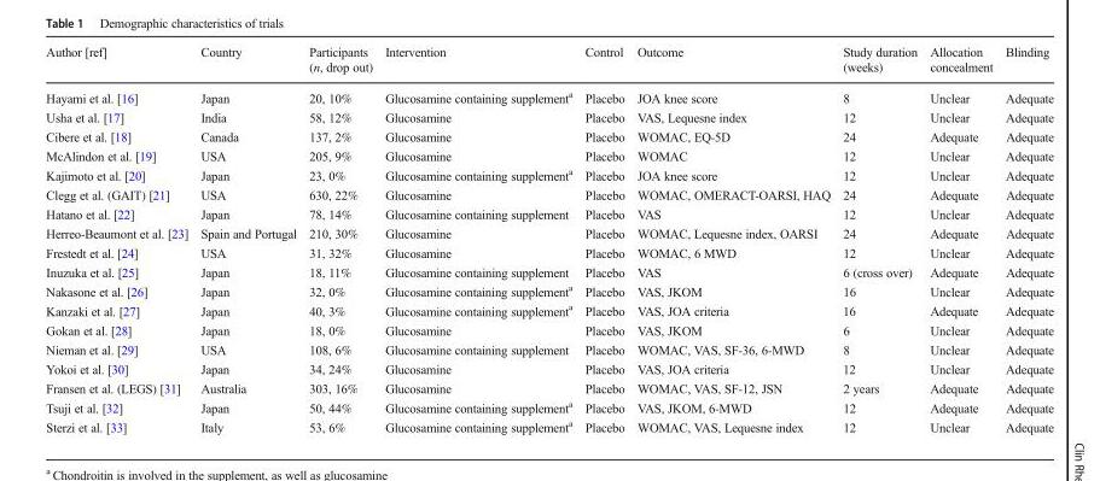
<table><thead><tr><td>Author [ref]</td><td>Country</td><td>Participants (n, drop out)</td><td>Intervention</td><td>Control</td><td>Outcome</td><td>Study duration (weeks)</td><td>Allocation concealment</td><td>Blinding</td></tr></thead><tbody><tr><td>Hayami et al. [16]</td><td>Japan</td><td>20, 10%</td><td>Glucosamine containing supplement<sup>a</sup></td><td>Placebo</td><td>JOA knee score</td><td>8</td><td>Unclear</td><td>Adequate</td></tr><tr><td>Usha et al. [17]</td><td>India</td><td>58, 12%</td><td>Glucosamine</td><td>Placebo</td><td>VAS, Lequesne index</td><td>12</td><td>Unclear</td><td>Adequate</td></tr><tr><td>Cibere et al. [18]</td><td>Canada</td><td>137, 2%</td><td>Glucosamine</td><td>Placebo</td><td>WOMAC, EQ-5D</td><td>24</td><td>Adequate</td><td>Adequate</td></tr><tr><td>McAlindon et al. [19]</td><td>USA</td><td>205, 9%</td><td>Glucosamine</td><td>Placebo</td><td>WOMAC</td><td>12</td><td>Unclear</td><td>Adequate</td></tr><tr><td>Kajimoto et al. [20]</td><td>Japan</td><td>23, 0%</td><td>Glucosamine containing supplement<sup>a</sup></td><td>Placebo</td><td>JOA knee score</td><td>12</td><td>Unclear</td><td>Adequate</td></tr><tr><td>Clegg et al. (GAIT) [21]</td><td>USA</td><td>630, 22%</td><td>Glucosamine</td><td>Placebo</td><td>WOMAC, OMERACT-OARSI, HAQ</td><td>24</td><td>Adequate</td><td>Adequate</td></tr><tr><td>Hatano et al. [22]</td><td>Japan</td><td>78, 14%</td><td>Glucosamine containing supplement</td><td>Placebo</td><td>VAS</td><td>12</td><td>Unclear</td><td>Adequate</td></tr><tr><td>Herreo-Beaumont et al. [23]</td><td>Spain and Portugal</td><td>210, 30%</td><td>Glucosamine</td><td>Placebo</td><td>WOMAC, Lequesne index, OARSI</td><td>24</td><td>Adequate</td><td>Adequate</td></tr><tr><td>Frestedt et al. [24]</td><td>USA</td><td>31, 32%</td><td>Glucosamine</td><td>Placebo</td><td>WOMAC, 6 MWD</td><td>12</td><td>Unclear</td><td>Adequate</td></tr><tr><td>Inuzuka et al. [25]</td><td>Japan</td><td>18, 11%</td><td>Glucosamine containing supplement</td><td>Placebo</td><td>VAS</td><td>6 (cross over)</td><td>Adequate</td><td>Adequate</td></tr><tr><td>Nakasone et al. [26]</td><td>Japan</td><td>32, 0%</td><td>Glucosamine containing supplement<sup>a</sup></td><td>Placebo</td><td>VAS, JKOM</td><td>16</td><td>Unclear</td><td>Adequate</td></tr><tr><td>Kanzaki et al. [27]</td><td>Japan</td><td>40, 3%</td><td>Glucosamine containing supplement<sup>a</sup></td><td>Placebo</td><td>VAS, JOA criteria</td><td>16</td><td>Adequate</td><td>Adequate</td></tr><tr><td>Gokan et al. [28]</td><td>Japan</td><td>18, 0%</td><td>Glucosamine</td><td>Placebo</td><td>VAS, JKOM</td><td>6</td><td>Unclear</td><td>Adequate</td></tr><tr><td>Nieman et al. [29]</td><td>USA</td><td>108, 6%</td><td>Glucosamine containing supplement</td><td>Placebo</td><td>WOMAC, VAS, SF-36, 6-MWD</td><td>8</td><td>Unclear</td><td>Adequate</td></tr><tr><td>Yokoi et al. [30]</td><td>Japan</td><td>34, 24%</td><td>Glucosamine</td><td>Placebo</td><td>VAS, JOA criteria</td><td>12</td><td>Unclear</td><td>Adequate</td></tr><tr><td>Fransen et al. (LEGS) [31]</td><td>Australia</td><td>303, 16%</td><td>Glucosamine</td><td>Placebo</td><td>WOMAC, VAS, SF-12, JSN</td><td>2 years</td><td>Adequate</td><td>Adequate</td></tr><tr><td>Tsuji et al. [32]</td><td>Japan</td><td>50, 44%</td><td>Glucosamine containing supplement<sup>a</sup></td><td>Placebo</td><td>VAS, JKOM, 6-MWD</td><td>12</td><td>Adequate</td><td>Adequate</td></tr><tr><td>Sterzi et al. [33]</td><td>Italy</td><td>53, 6%</td><td>Glucosamine containing supplement<sup>a</sup></td><td>Placebo</td><td>WOMAC, VAS, Lequesne index</td><td>12</td><td>Unclear</td><td>Adequate</td></tr></tbody></table>